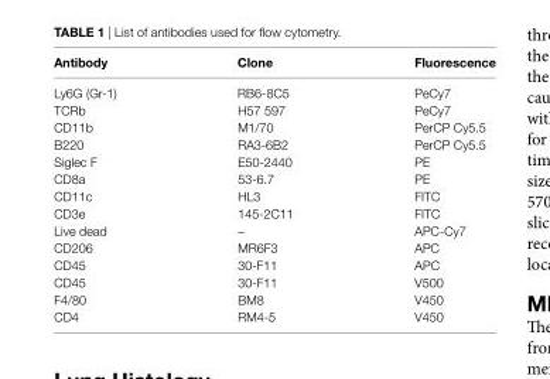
<table><thead><tr><td>antibody</td><td>clone</td><td>Fluorescence</td></tr></thead><tbody><tr><td>Ly6G (Gr-1)</td><td>RB6-8C5</td><td>PeCy7</td></tr><tr><td>TCRb</td><td>H57 597</td><td>PeCy7</td></tr><tr><td>CD11b</td><td>M1/70</td><td>PerCP Cy5.5</td></tr><tr><td>B220</td><td>RA3-6B2</td><td>PerCP Cy5.5</td></tr><tr><td>Siglec F</td><td>E50-2440</td><td>PE</td></tr><tr><td>CD8a</td><td>53-6.7</td><td>PE</td></tr><tr><td>CD11c</td><td>HL3</td><td>FITC</td></tr><tr><td>CD3e</td><td>145-2C11</td><td>FITC</td></tr><tr><td>Live dead</td><td>–</td><td>APC-Cy7</td></tr><tr><td>CD206</td><td>MR6F3</td><td>APC</td></tr><tr><td>CD45</td><td>30-F11</td><td>APC</td></tr><tr><td>CD45</td><td>30-F11</td><td>V500</td></tr><tr><td>F4/80</td><td>BM8</td><td>V450</td></tr><tr><td>CD4</td><td>RM4-5</td><td>V450</td></tr></tbody></table>